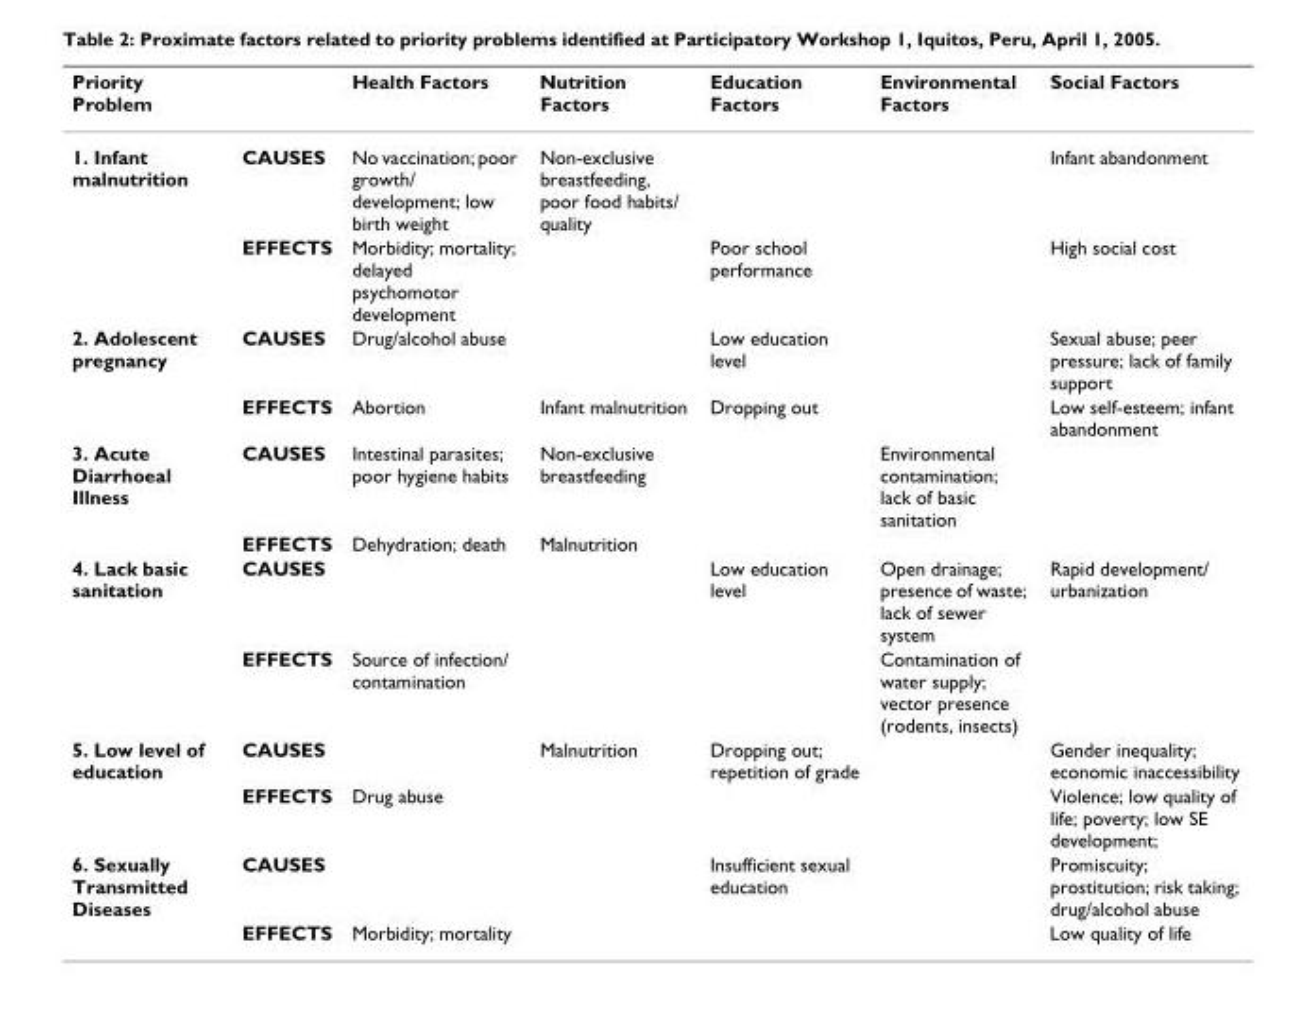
<table><thead><tr><td>Priority Problem</td><td></td><td>Health Factors</td><td>Nutrition Factors</td><td>Education Factors</td><td>Environmental Factors</td><td>Social Factors</td></tr></thead><tbody><tr><td rowspan="2">1. Infant malnutrition</td><td>CAUSES</td><td>No vaccination; poor growth/ development; low birth weight</td><td>Non-exclusive breastfeeding, poor food habits/ quality</td><td></td><td></td><td>Infant abandonment</td></tr><tr><td>EFFECTS</td><td>Morbidity; mortality; delayed psychomotor development</td><td></td><td>Poor school performance</td><td></td><td>High social cost</td></tr><tr><td rowspan="2">2. Adolescent pregnancy</td><td>CAUSES</td><td>Drug/alcohol abuse</td><td></td><td>Low education level</td><td></td><td>Sexual abuse; peer pressure; lack of family support</td></tr><tr><td>EFFECTS</td><td>Abortion</td><td>Infant malnutrition</td><td>Dropping out</td><td></td><td>Low self-esteem; infant abandonment</td></tr><tr><td rowspan="2">3. Acute Diarrhoeal Illness</td><td>CAUSES</td><td>Intestinal parasites; poor hygiene habits</td><td>Non-exclusive breastfeeding</td><td></td><td>Environmental contamination; lack of basic sanitation</td><td></td></tr><tr><td>EFFECTS</td><td>Dehydration; death</td><td>Malnutrition</td><td></td><td></td><td></td></tr><tr><td rowspan="2">4. Lack basic sanitation</td><td>CAUSES</td><td></td><td></td><td>Low education level</td><td>Open drainage; presence of waste; lack of sewer system</td><td>Rapid development/ urbanization</td></tr><tr><td>EFFECTS</td><td>Source of infection/ contamination</td><td></td><td></td><td>Contamination of water supply; vector presence (rodents, insects)</td><td></td></tr><tr><td rowspan="2">5. Low level of education</td><td>CAUSES</td><td></td><td>Malnutrition</td><td>Dropping out; repetition of grade</td><td></td><td>Gender inequality; economic inaccessibility</td></tr><tr><td>EFFECTS</td><td>Drug abuse</td><td></td><td></td><td></td><td>Violence; low quality of life; poverty; low SE development;</td></tr><tr><td rowspan="2">6. Sexually Transmitted Diseases</td><td>CAUSES</td><td></td><td></td><td>Insufficient sexual education</td><td></td><td>Promiscuity; prostitution; risk taking; drug/alcohol abuse</td></tr><tr><td>EFFECTS</td><td>Morbidity; mortality</td><td></td><td></td><td></td><td>Low quality of life</td></tr></tbody></table>